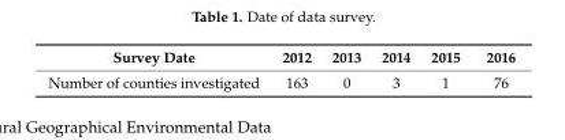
<table><thead><tr><td>Survey Date</td><td>2012</td><td>2013</td><td>2014</td><td>2015</td><td>2016</td></tr></thead><tbody><tr><td>Number of counties investigated</td><td>163</td><td>0</td><td>3</td><td>1</td><td>76</td></tr></tbody></table>